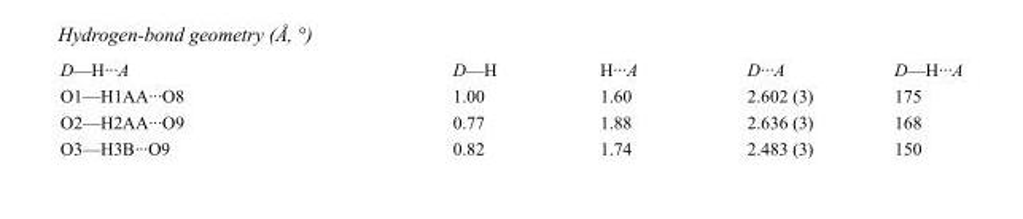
<table><tbody><tr><td>D—H···A</td><td>D—H</td><td>H···A</td><td>D···A</td><td>D—H···A</td></tr><tr><td>O1—H1AA···O8</td><td>1.00</td><td>1.60</td><td>2.602 (3)</td><td>175</td></tr><tr><td>O2—H2AA···O9</td><td>0.77</td><td>1.88</td><td>2.636 (3)</td><td>168</td></tr><tr><td>O3—H3B···O9</td><td>0.82</td><td>1.74</td><td>2.483 (3)</td><td>150</td></tr></tbody></table>